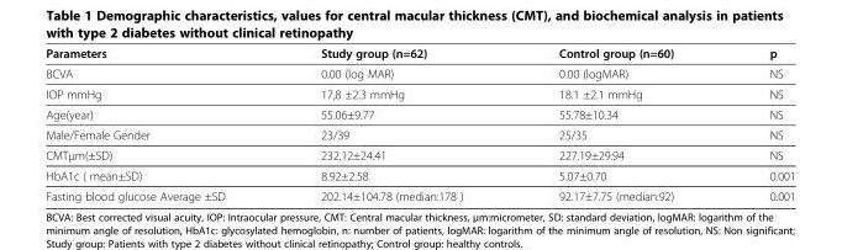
<table><thead><tr><td>Parameters</td><td>Study group (n=62)</td><td>Control group (n=60)</td><td>p</td></tr></thead><tbody><tr><td>BCVA</td><td>0.00 (log MAR)</td><td>0.00 (logMAR)</td><td>NS</td></tr><tr><td>IOP mmHg</td><td>17,8 ±2.3 mmHg</td><td>18.1 ±2.1 mmHg</td><td>NS</td></tr><tr><td>Age(year)</td><td>55.06±9.77</td><td>55.78±10.34</td><td>NS</td></tr><tr><td>Male/Female Gender</td><td>23/39</td><td>25/35</td><td>NS</td></tr><tr><td>CMTμm(±SD)</td><td>232.12±24.41</td><td>227.19±29.94</td><td>NS</td></tr><tr><td>HbA1c ( mean±SD)</td><td>8.92±2.58</td><td>5.07±0.70</td><td>0.001</td></tr><tr><td>Fasting blood glucose Average ±SD</td><td>202.14±104.78 (median:178 )</td><td>92.17±7.75 (median:92)</td><td>0.001</td></tr></tbody></table>